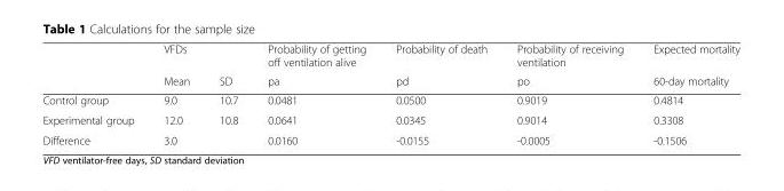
<table><thead><tr><td rowspan="2"></td><td rowspan="2">VFDs Mean</td><td rowspan="2">SD</td><td rowspan="2">Probability of getting off ventilation alive pa</td><td rowspan="2">Probability of death pd</td><td rowspan="2">Probability of receiving ventilation po</td><td rowspan="2">Expected mortality 60-day mortality</td></tr><tr></tr></thead><tbody><tr><td>Control group</td><td>9.0</td><td>10.7</td><td>0.0481</td><td>0.0500</td><td>0.9019</td><td>0.4814</td></tr><tr><td>Experimental group</td><td>12.0</td><td>10.8</td><td>0.0641</td><td>0.0345</td><td>0.9014</td><td>0.3308</td></tr><tr><td>Difference</td><td>3.0</td><td></td><td>0.0160</td><td>-0.0155</td><td>-0.0005</td><td>-0.1506</td></tr></tbody></table>